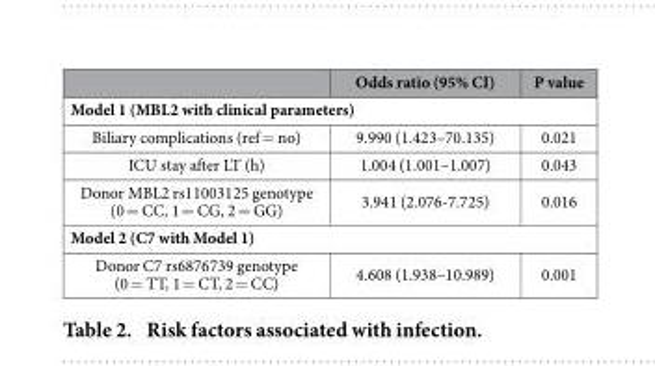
<table><thead><tr><td></td><td>Odds ratio (95% CI)</td><td>P value</td></tr></thead><tbody><tr><td colspan="3">Model 1 (MBL2 with clinical parameters)</td></tr><tr><td>Biliary complications (ref = no)</td><td>9.990 (1.423–70.135)</td><td>0.021</td></tr><tr><td>ICU stay after LT (h)</td><td>1.004 (1.001–1.007)</td><td>0.043</td></tr><tr><td>Donor MBL2 rs11003125 genotype (0 = CC, 1 = CG, 2 = GG)</td><td>3.941 (2.076-7.725)</td><td>0.016</td></tr><tr><td colspan="3">Model 2 (C7 with Model 1)</td></tr><tr><td>Donor C7 rs6876739 genotype (0 = TT, 1 = CT, 2 = CC)</td><td>4.608 (1.938–10.989)</td><td>0.001</td></tr></tbody></table>